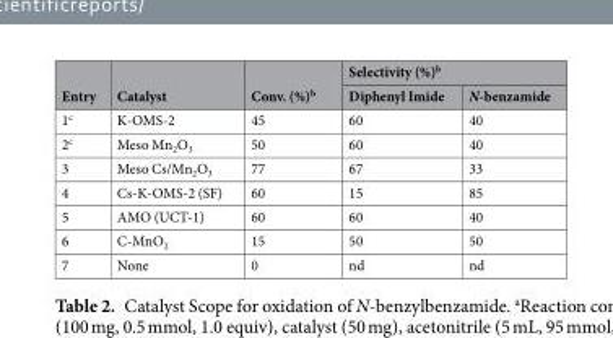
<table><thead><tr><td rowspan="2">Entry</td><td rowspan="2">Catalyst</td><td rowspan="2">Conv. (%)<sup>b</sup></td><td colspan="2">Selectivity (%)<sup>b</sup></td></tr><tr><td>Diphenyl Imide</td><td>N-benzamide</td></tr></thead><tbody><tr><td>1<sup>c</sup></td><td>K-OMS-2</td><td>45</td><td>60</td><td>40</td></tr><tr><td>2<sup>c</sup></td><td>Meso Mn<sub>2</sub>O<sub>3</sub></td><td>50</td><td>60</td><td>40</td></tr><tr><td>3</td><td>Meso Cs/Mn<sub>2</sub>O<sub>3</sub></td><td>77</td><td>67</td><td>33</td></tr><tr><td>4</td><td>Cs-K-OMS-2 (SF)</td><td>60</td><td>15</td><td>85</td></tr><tr><td>5</td><td>AMO (UCT-1)</td><td>60</td><td>60</td><td>40</td></tr><tr><td>6</td><td>C-MnO<sub>2</sub></td><td>15</td><td>50</td><td>50</td></tr><tr><td>7</td><td>None</td><td>0</td><td>nd</td><td>nd</td></tr></tbody></table>